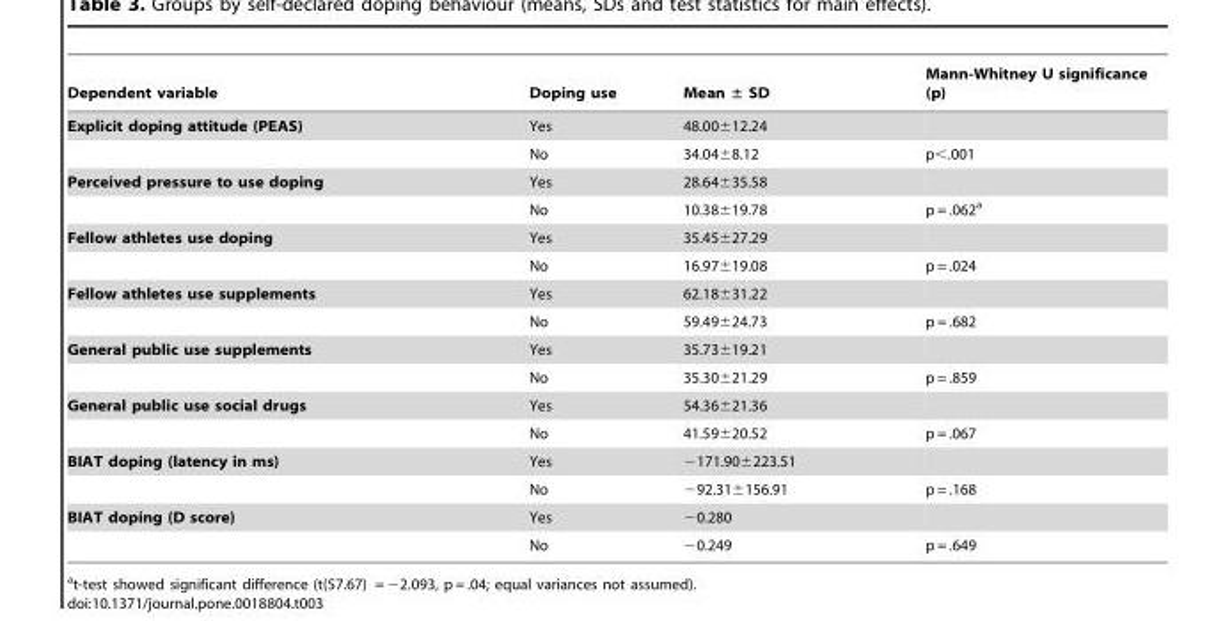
<table><thead><tr><td>Dependent variable</td><td>Doping use</td><td>Mean ± SD</td><td>Mann-Whitney U significance (p)</td></tr></thead><tbody><tr><td rowspan="2">Explicit doping attitude (PEAS)</td><td>Yes</td><td>48.00±12.24</td><td></td></tr><tr><td>No</td><td>34.04±8.12</td><td>p&lt;.001</td></tr><tr><td rowspan="2">Perceived pressure to use doping</td><td>Yes</td><td>28.64±35.58</td><td></td></tr><tr><td>No</td><td>10.38±19.78</td><td>p = .062<sup>a</sup></td></tr><tr><td rowspan="2">Fellow athletes use doping</td><td>Yes</td><td>35.45±27.29</td><td></td></tr><tr><td>No</td><td>16.97±19.08</td><td>p = .024</td></tr><tr><td rowspan="2">Fellow athletes use supplements</td><td>Yes</td><td>62.18±31.22</td><td></td></tr><tr><td>No</td><td>59.49±24.73</td><td>p = .682</td></tr><tr><td rowspan="2">General public use supplements</td><td>Yes</td><td>35.73±19.21</td><td></td></tr><tr><td>No</td><td>35.30±21.29</td><td>p = .859</td></tr><tr><td rowspan="2">General public use social drugs</td><td>Yes</td><td>54.36±21.36</td><td></td></tr><tr><td>No</td><td>41.59±20.52</td><td>p = .067</td></tr><tr><td rowspan="2">BIAT doping (latency in ms)</td><td>Yes</td><td>−171.90±223.51</td><td></td></tr><tr><td>No</td><td>−92.31±156.91</td><td>p = .168</td></tr><tr><td rowspan="2">BIAT doping (D score)</td><td>Yes</td><td>−0.280</td><td></td></tr><tr><td>No</td><td>−0.249</td><td>p = .649</td></tr></tbody></table>